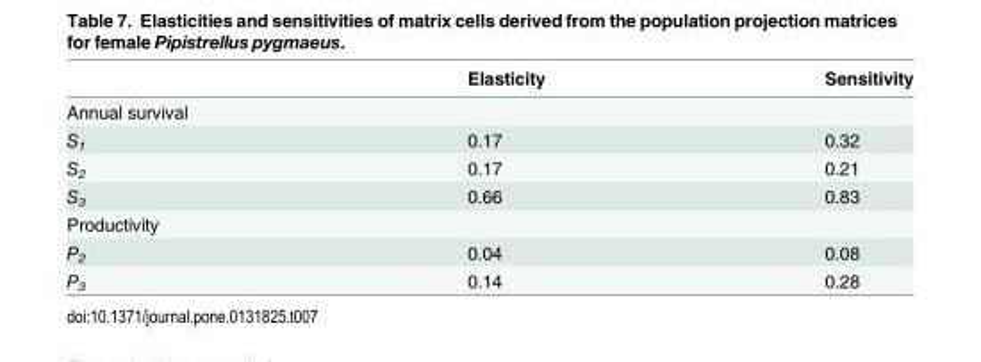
<table><thead><tr><td></td><td>Elasticity</td><td>Sensitivity</td></tr></thead><tbody><tr><td colspan="3">Annual survival</td></tr><tr><td>S<sub>1</sub></td><td>0.17</td><td>0.32</td></tr><tr><td>S<sub>2</sub></td><td>0.17</td><td>0.21</td></tr><tr><td>S<sub>3</sub></td><td>0.66</td><td>0.83</td></tr><tr><td colspan="3">Productivity</td></tr><tr><td>P<sub>2</sub></td><td>0.04</td><td>0.08</td></tr><tr><td>P<sub>3</sub></td><td>0.14</td><td>0.28</td></tr></tbody></table>